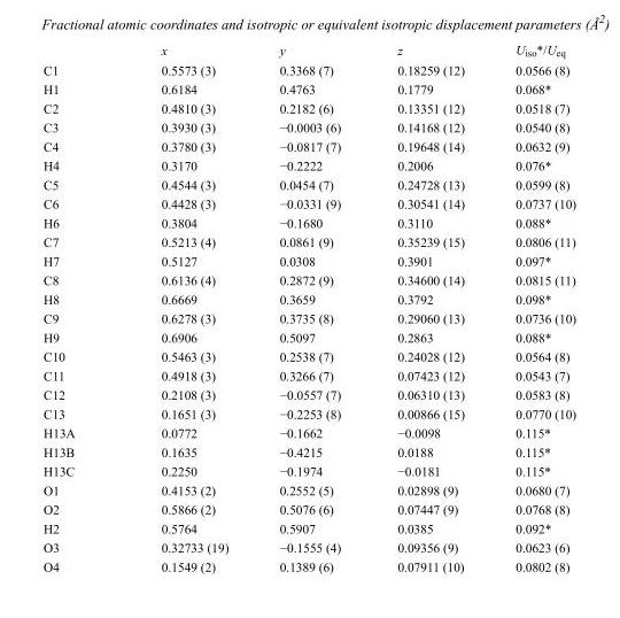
<table><thead><tr><td></td><td>x</td><td>y</td><td>z</td><td>U<sub>iso</sub>*/U<sub>eq</sub></td></tr></thead><tbody><tr><td>C1</td><td>0.5573 (3)</td><td>0.3368 (7)</td><td>0.18259 (12)</td><td>0.0566 (8)</td></tr><tr><td>H1</td><td>0.6184</td><td>0.4763</td><td>0.1779</td><td>0.068*</td></tr><tr><td>C2</td><td>0.4810 (3)</td><td>0.2182 (6)</td><td>0.13351 (12)</td><td>0.0518 (7)</td></tr><tr><td>C3</td><td>0.3930 (3)</td><td>−0.0003 (6)</td><td>0.14168 (12)</td><td>0.0540 (8)</td></tr><tr><td>C4</td><td>0.3780 (3)</td><td>−0.0817 (7)</td><td>0.19648 (14)</td><td>0.0632 (9)</td></tr><tr><td>H4</td><td>0.3170</td><td>−0.2222</td><td>0.2006</td><td>0.076*</td></tr><tr><td>C5</td><td>0.4544 (3)</td><td>0.0454 (7)</td><td>0.24728 (13)</td><td>0.0599 (8)</td></tr><tr><td>C6</td><td>0.4428 (3)</td><td>−0.0331 (9)</td><td>0.30541 (14)</td><td>0.0737 (10)</td></tr><tr><td>H6</td><td>0.3804</td><td>−0.1680</td><td>0.3110</td><td>0.088*</td></tr><tr><td>C7</td><td>0.5213 (4)</td><td>0.0861 (9)</td><td>0.35239 (15)</td><td>0.0806 (11)</td></tr><tr><td>H7</td><td>0.5127</td><td>0.0308</td><td>0.3901</td><td>0.097*</td></tr><tr><td>C8</td><td>0.6136 (4)</td><td>0.2872 (9)</td><td>0.34600 (14)</td><td>0.0815 (11)</td></tr><tr><td>H8</td><td>0.6669</td><td>0.3659</td><td>0.3792</td><td>0.098*</td></tr><tr><td>C9</td><td>0.6278 (3)</td><td>0.3735 (8)</td><td>0.29060 (13)</td><td>0.0736 (10)</td></tr><tr><td>H9</td><td>0.6906</td><td>0.5097</td><td>0.2863</td><td>0.088*</td></tr><tr><td>C10</td><td>0.5463 (3)</td><td>0.2538 (7)</td><td>0.24028 (12)</td><td>0.0564 (8)</td></tr><tr><td>C11</td><td>0.4918 (3)</td><td>0.3266 (7)</td><td>0.07423 (12)</td><td>0.0543 (7)</td></tr><tr><td>C12</td><td>0.2108 (3)</td><td>−0.0557 (7)</td><td>0.06310 (13)</td><td>0.0583 (8)</td></tr><tr><td>C13</td><td>0.1651 (3)</td><td>−0.2253 (8)</td><td>0.00866 (15)</td><td>0.0770 (10)</td></tr><tr><td>H13A</td><td>0.0772</td><td>−0.1662</td><td>−0.0098</td><td>0.115*</td></tr><tr><td>H13B</td><td>0.1635</td><td>−0.4215</td><td>0.0188</td><td>0.115*</td></tr><tr><td>H13C</td><td>0.2250</td><td>−0.1974</td><td>−0.0181</td><td>0.115*</td></tr><tr><td>O1</td><td>0.4153 (2)</td><td>0.2552 (5)</td><td>0.02898 (9)</td><td>0.0680 (7)</td></tr><tr><td>O2</td><td>0.5866 (2)</td><td>0.5076 (6)</td><td>0.07447 (9)</td><td>0.0768 (8)</td></tr><tr><td>H2</td><td>0.5764</td><td>0.5907</td><td>0.0385</td><td>0.092*</td></tr><tr><td>O3</td><td>0.32733 (19)</td><td>−0.1555 (4)</td><td>0.09356 (9)</td><td>0.0623 (6)</td></tr><tr><td>O4</td><td>0.1549 (2)</td><td>0.1389 (6)</td><td>0.07911 (10)</td><td>0.0802 (8)</td></tr></tbody></table>